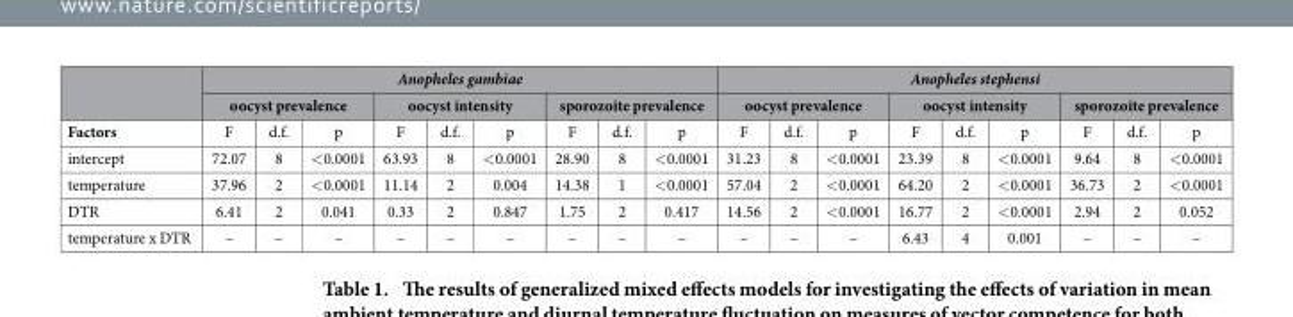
<table><thead><tr><td rowspan="3">Factors</td><td colspan="9">Anopheles gambiae</td><td colspan="9">Anopheles stephensi</td></tr><tr><td colspan="3">oocyst prevalence</td><td colspan="3">oocyst intensity</td><td colspan="3">sporozoite prevalence</td><td colspan="3">oocyst prevalence</td><td colspan="3">oocyst intensity</td><td colspan="3">sporozoite prevalence</td></tr><tr><td>F</td><td>d.f.</td><td>p</td><td>F</td><td>d.f.</td><td>p</td><td>F</td><td>d.f.</td><td>p</td><td>F</td><td>d.f.</td><td>p</td><td>F</td><td>d.f.</td><td>p</td><td>F</td><td>d.f.</td><td>p</td></tr></thead><tbody><tr><td>intercept</td><td>72.07</td><td>8</td><td>&lt; 0.0001</td><td>63.93</td><td>8</td><td>&lt; 0.0001</td><td>28.90</td><td>8</td><td>&lt; 0.0001</td><td>31.23</td><td>8</td><td>&lt; 0.0001</td><td>23.39</td><td>8</td><td>&lt; 0.0001</td><td>9.64</td><td>8</td><td>&lt; 0.0001</td></tr><tr><td>temperature</td><td>37.96</td><td>2</td><td>&lt; 0.0001</td><td>11.14</td><td>2</td><td>0.004</td><td>14.38</td><td>1</td><td>&lt; 0.0001</td><td>57.04</td><td>2</td><td>&lt; 0.0001</td><td>64.20</td><td>2</td><td>&lt; 0.0001</td><td>36.73</td><td>2</td><td>&lt; 0.0001</td></tr><tr><td>DTR</td><td>6.41</td><td>2</td><td>0.041</td><td>0.33</td><td>2</td><td>0.847</td><td>1.75</td><td>2</td><td>0.417</td><td>14.56</td><td>2</td><td>&lt; 0.0001</td><td>16.77</td><td>2</td><td>&lt; 0.0001</td><td>2.94</td><td>2</td><td>0.052</td></tr><tr><td>temperature x DTR</td><td>–</td><td>–</td><td>–</td><td>–</td><td>–</td><td>–</td><td>–</td><td>–</td><td>–</td><td>–</td><td>–</td><td>–</td><td>6.43</td><td>4</td><td>0.001</td><td>–</td><td>–</td><td>–</td></tr></tbody></table>